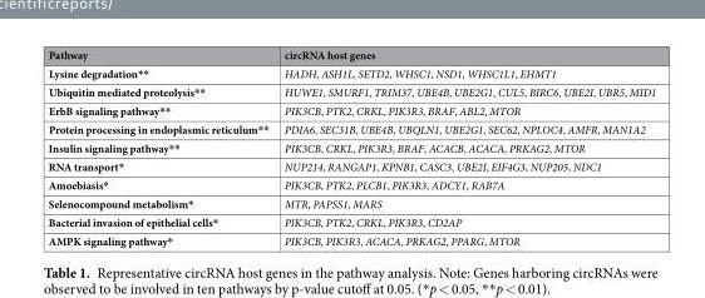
<table><thead><tr><td>Pathway</td><td>circRNA host genes</td></tr></thead><tbody><tr><td>Lysine degradation**</td><td>HADH, ASH1L, SETD2, WHSC1, NSD1, WHSC1L1, EHMT1</td></tr><tr><td>Ubiquitin mediated proteolysis**</td><td>HUWE1, SMURF1, TRIM37, UBE4B, UBE2G1, CUL5, BIRC6, UBE2I, UBR5, MID1</td></tr><tr><td>ErbB signaling pathway**</td><td>PIK3CB, PTK2, CRKL, PIK3R3, BRAF, ABL2, MTOR</td></tr><tr><td>Protein processing in endoplasmic reticulum**</td><td>PDIA6, SEC31B, UBE4B, UBQLN1, UBE2G1, SEC62, NPLOC4, AMFR, MAN1A2</td></tr><tr><td>Insulin signaling pathway**</td><td>PIK3CB, CRKL, PIK3R3, BRAF, ACACB, ACACA, PRKAG2, MTOR</td></tr><tr><td>RNA transport*</td><td>NUP214, RANGAP1, KPNB1, CASC3, UBE2I, EIF4G3, NUP205, NDC1</td></tr><tr><td>Amoebiasis*</td><td>PIK3CB, PTK2, PLCB1, PIK3R3, ADCY1, RAB7A</td></tr><tr><td>Selenocompound metabolism*</td><td>MTR, PAPSS1, MARS</td></tr><tr><td>Bacterial invasion of epithelial cells*</td><td>PIK3CB, PTK2, CRKL, PIK3R3, CD2AP</td></tr><tr><td>AMPK signaling pathway*</td><td>PIK3CB, PIK3R3, ACACA, PRKAG2, PPARG, MTOR</td></tr></tbody></table>